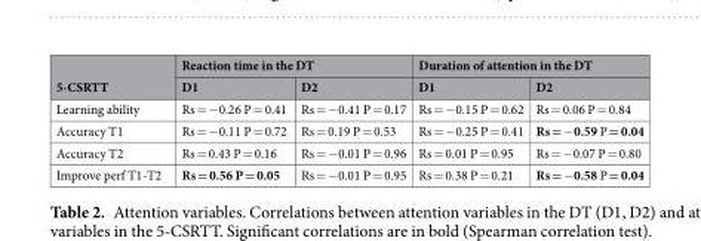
<table><thead><tr><td rowspan="2">5-CSRTT</td><td colspan="2">Reaction time in the DT</td><td colspan="2">Duration of attention in the DT</td></tr><tr><td>D1</td><td>D2</td><td>D1</td><td>D2</td></tr></thead><tbody><tr><td>Learning ability</td><td>Rs = −0.26 P = 0.41</td><td>Rs = −0.41 P = 0.17</td><td>Rs = −0.15 P = 0.62</td><td>Rs = 0.06 P = 0.84</td></tr><tr><td>Accuracy T1</td><td>Rs = −0.11 P = 0.72</td><td>Rs = 0.19 P = 0.53</td><td>Rs = −0.25 P = 0.41</td><td>Rs = −0.59 P = 0.04</td></tr><tr><td>Accuracy T2</td><td>Rs = 0.43 P = 0.16</td><td>Rs = −0.01 P = 0.96</td><td>Rs = 0.01 P = 0.95</td><td>Rs = −0.07 P = 0.80</td></tr><tr><td>Improve perf T1-T2</td><td>Rs = 0.56 P = 0.05</td><td>Rs = −0.01 P = 0.95</td><td>Rs = 0.38 P = 0.21</td><td>Rs = −0.58 P = 0.04</td></tr></tbody></table>